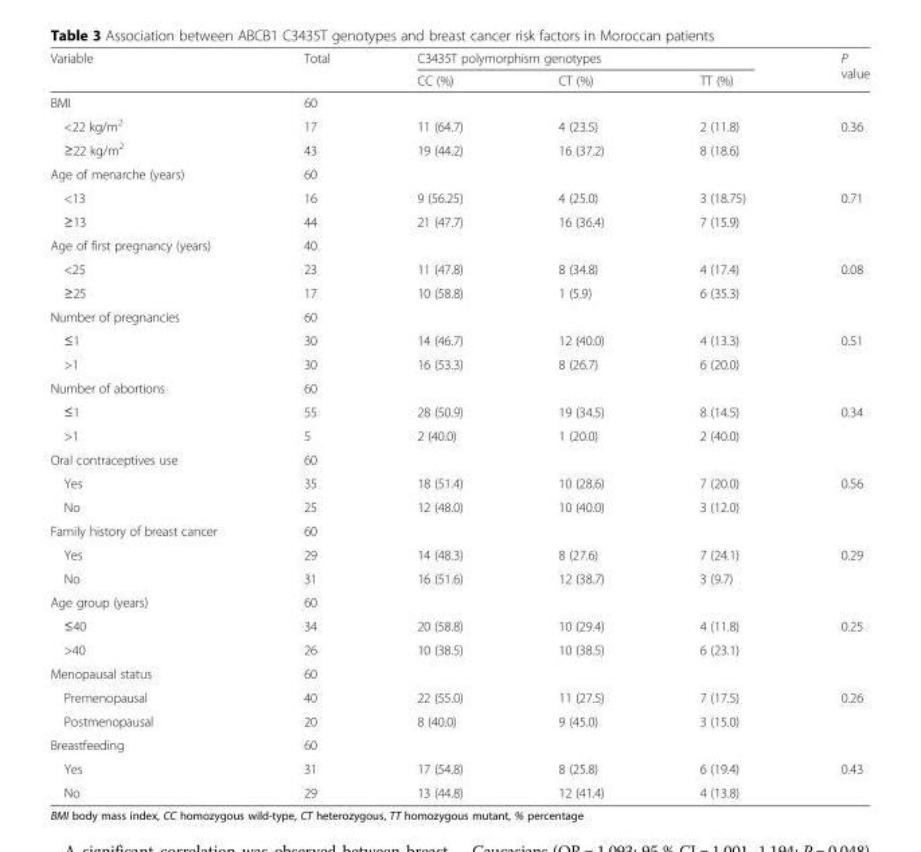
<table><thead><tr><td rowspan="2">Variable</td><td rowspan="2">Total</td><td colspan="3">C3435T polymorphism genotypes</td><td rowspan="2">P value</td></tr><tr><td>CC (%)</td><td>CT (%)</td><td>TT (%)</td></tr></thead><tbody><tr><td>BMI</td><td>60</td><td></td><td></td><td></td><td></td></tr><tr><td>&lt;22 kg/m<sup>2</sup></td><td>17</td><td>11 (64.7)</td><td>4 (23.5)</td><td>2 (11.8)</td><td rowspan="2">0.36</td></tr><tr><td>≥22 kg/m<sup>2</sup></td><td>43</td><td>19 (44.2)</td><td>16 (37.2)</td><td>8 (18.6)</td></tr><tr><td>Age of menarche (years)</td><td>60</td><td></td><td></td><td></td><td></td></tr><tr><td>&lt;13</td><td>16</td><td>9 (56.25)</td><td>4 (25.0)</td><td>3 (18.75)</td><td rowspan="2">0.71</td></tr><tr><td>≥13</td><td>44</td><td>21 (47.7)</td><td>16 (36.4)</td><td>7 (15.9)</td></tr><tr><td>Age of first pregnancy (years)</td><td>40</td><td></td><td></td><td></td><td></td></tr><tr><td>&lt;25</td><td>23</td><td>11 (47.8)</td><td>8 (34.8)</td><td>4 (17.4)</td><td rowspan="2">0.08</td></tr><tr><td>≥25</td><td>17</td><td>10 (58.8)</td><td>1 (5.9)</td><td>6 (35.3)</td></tr><tr><td>Number of pregnancies</td><td>60</td><td></td><td></td><td></td><td></td></tr><tr><td>≤1</td><td>30</td><td>14 (46.7)</td><td>12 (40.0)</td><td>4 (13.3)</td><td rowspan="2">0.51</td></tr><tr><td>&gt;1</td><td>30</td><td>16 (53.3)</td><td>8 (26.7)</td><td>6 (20.0)</td></tr><tr><td>Number of abortions</td><td>60</td><td></td><td></td><td></td><td></td></tr><tr><td>≤1</td><td>55</td><td>28 (50.9)</td><td>19 (34.5)</td><td>8 (14.5)</td><td rowspan="2">0.34</td></tr><tr><td>&gt;1</td><td>5</td><td>2 (40.0)</td><td>1 (20.0)</td><td>2 (40.0)</td></tr><tr><td>Oral contraceptives use</td><td>60</td><td></td><td></td><td></td><td></td></tr><tr><td>Yes</td><td>35</td><td>18 (51.4)</td><td>10 (28.6)</td><td>7 (20.0)</td><td rowspan="2">0.56</td></tr><tr><td>No</td><td>25</td><td>12 (48.0)</td><td>10 (40.0)</td><td>3 (12.0)</td></tr><tr><td>Family history of breast cancer</td><td>60</td><td></td><td></td><td></td><td></td></tr><tr><td>Yes</td><td>29</td><td>14 (48.3)</td><td>8 (27.6)</td><td>7 (24.1)</td><td rowspan="2">0.29</td></tr><tr><td>No</td><td>31</td><td>16 (51.6)</td><td>12 (38.7)</td><td>3 (9.7)</td></tr><tr><td>Age group (years)</td><td>60</td><td></td><td></td><td></td><td></td></tr><tr><td>≤40</td><td>34</td><td>20 (58.8)</td><td>10 (29.4)</td><td>4 (11.8)</td><td rowspan="2">0.25</td></tr><tr><td>&gt;40</td><td>26</td><td>10 (38.5)</td><td>10 (38.5)</td><td>6 (23.1)</td></tr><tr><td>Menopausal status</td><td>60</td><td></td><td></td><td></td><td></td></tr><tr><td>Premenopausal</td><td>40</td><td>22 (55.0)</td><td>11 (27.5)</td><td>7 (17.5)</td><td rowspan="2">0.26</td></tr><tr><td>Postmenopausal</td><td>20</td><td>8 (40.0)</td><td>9 (45.0)</td><td>3 (15.0)</td></tr><tr><td>Breastfeeding</td><td>60</td><td></td><td></td><td></td><td></td></tr><tr><td>Yes</td><td>31</td><td>17 (54.8)</td><td>8 (25.8)</td><td>6 (19.4)</td><td rowspan="2">0.43</td></tr><tr><td>No</td><td>29</td><td>13 (44.8)</td><td>12 (41.4)</td><td>4 (13.8)</td></tr></tbody></table>